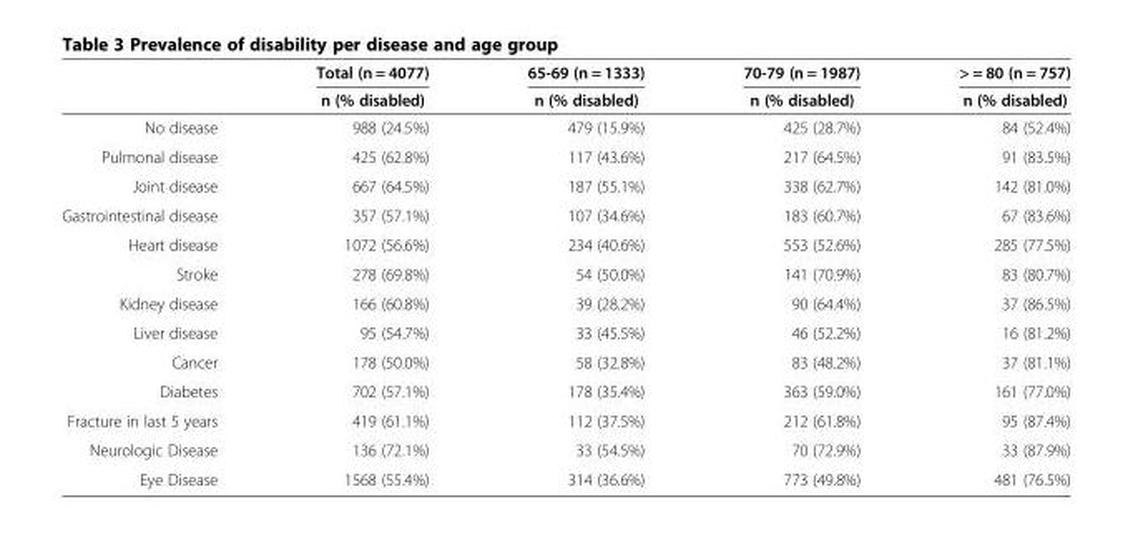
<table><thead><tr><td rowspan="2"></td><td rowspan="2">Total (n = 4077) n (% disabled)</td><td rowspan="2">65-69 (n = 1333) n (% disabled)</td><td rowspan="2">70-79 (n = 1987) n (% disabled)</td><td rowspan="2">&gt; = 80 (n = 757) n (% disabled)</td></tr><tr></tr></thead><tbody><tr><td>No disease</td><td>988 (24.5%)</td><td>479 (15.9%)</td><td>425 (28.7%)</td><td>84 (52.4%)</td></tr><tr><td>Pulmonal disease</td><td>425 (62.8%)</td><td>117 (43.6%)</td><td>217 (64.5%)</td><td>91 (83.5%)</td></tr><tr><td>Joint disease</td><td>667 (64.5%)</td><td>187 (55.1%)</td><td>338 (62.7%)</td><td>142 (81.0%)</td></tr><tr><td>Gastrointestinal disease</td><td>357 (57.1%)</td><td>107 (34.6%)</td><td>183 (60.7%)</td><td>67 (83.6%)</td></tr><tr><td>Heart disease</td><td>1072 (56.6%)</td><td>234 (40.6%)</td><td>553 (52.6%)</td><td>285 (77.5%)</td></tr><tr><td>Stroke</td><td>278 (69.8%)</td><td>54 (50.0%)</td><td>141 (70.9%)</td><td>83 (80.7%)</td></tr><tr><td>Kidney disease</td><td>166 (60.8%)</td><td>39 (28.2%)</td><td>90 (64.4%)</td><td>37 (86.5%)</td></tr><tr><td>Liver disease</td><td>95 (54.7%)</td><td>33 (45.5%)</td><td>46 (52.2%)</td><td>16 (81.2%)</td></tr><tr><td>Cancer</td><td>178 (50.0%)</td><td>58 (32.8%)</td><td>83 (48.2%)</td><td>37 (81.1%)</td></tr><tr><td>Diabetes</td><td>702 (57.1%)</td><td>178 (35.4%)</td><td>363 (59.0%)</td><td>161 (77.0%)</td></tr><tr><td>Fracture in last 5 years</td><td>419 (61.1%)</td><td>112 (37.5%)</td><td>212 (61.8%)</td><td>95 (87.4%)</td></tr><tr><td>Neurologic Disease</td><td>136 (72.1%)</td><td>33 (54.5%)</td><td>70 (72.9%)</td><td>33 (87.9%)</td></tr><tr><td>Eye Disease</td><td>1568 (55.4%)</td><td>314 (36.6%)</td><td>773 (49.8%)</td><td>481 (76.5%)</td></tr></tbody></table>